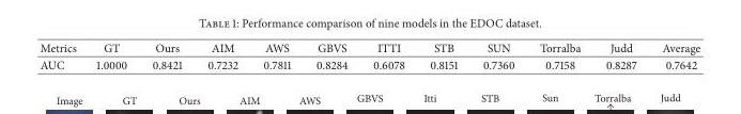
<table><thead><tr><td>Metrics</td><td>GT</td><td>Ours</td><td>AIM</td><td>AWS</td><td>GBVS</td><td>ITTI</td><td>STB</td><td>SUN</td><td>Torralba</td><td>Judd</td><td>Average</td></tr></thead><tbody><tr><td>AUC</td><td>1.0000</td><td>0.8421</td><td>0.7232</td><td>0.7811</td><td>0.8284</td><td>0.6078</td><td>0.8151</td><td>0.7360</td><td>0.7158</td><td>0.8287</td><td>0.7642</td></tr></tbody></table>